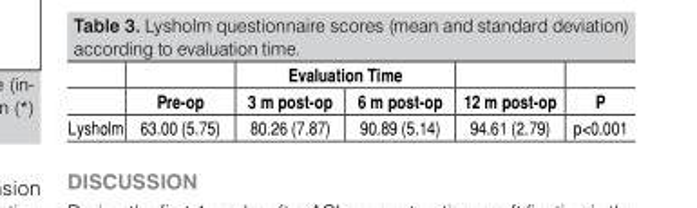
<table><thead><tr><td rowspan="2"></td><td rowspan="2">Pre-op</td><td colspan="2">Evaluation Time</td><td rowspan="2">12 m post-op</td><td rowspan="2">P</td></tr><tr><td>3 m post-op</td><td>6 m post-op</td></tr></thead><tbody><tr><td>Lysholm</td><td>63.00 (5.75)</td><td>80.26 (7.87)</td><td>90.89 (5.14)</td><td>94.61 (2.79)</td><td>p&lt;0.001</td></tr></tbody></table>